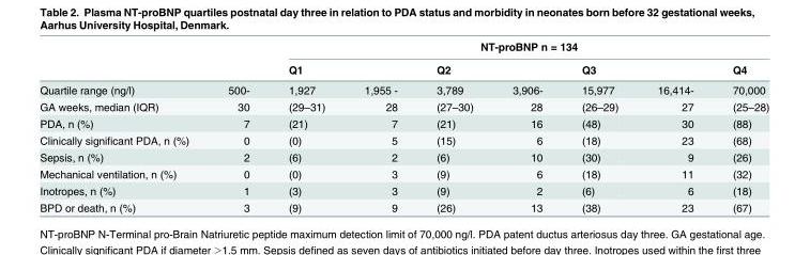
<table><thead><tr><td rowspan="2"></td><td colspan="8">NT-proBNP n = 134</td></tr><tr><td></td><td>Q1</td><td></td><td>Q2</td><td></td><td>Q3</td><td></td><td>Q4</td></tr></thead><tbody><tr><td>Quartile range (ng/l)</td><td>500-</td><td>1,927</td><td>1,955 -</td><td>3,789</td><td>3,906-</td><td>15,977</td><td>16,414-</td><td>70,000</td></tr><tr><td>GA weeks, median (IQR)</td><td>30</td><td>(29–31)</td><td>28</td><td>(27–30)</td><td>28</td><td>(26–29)</td><td>27</td><td>(25–28)</td></tr><tr><td>PDA, n (%)</td><td>7</td><td>(21)</td><td>7</td><td>(21)</td><td>16</td><td>(48)</td><td>30</td><td>(88)</td></tr><tr><td>Clinically significant PDA, n (%)</td><td>0</td><td>(0)</td><td>5</td><td>(15)</td><td>6</td><td>(18)</td><td>23</td><td>(68)</td></tr><tr><td>Sepsis, n (%)</td><td>2</td><td>(6)</td><td>2</td><td>(6)</td><td>10</td><td>(30)</td><td>9</td><td>(26)</td></tr><tr><td>Mechanical ventilation, n (%)</td><td>0</td><td>(0)</td><td>3</td><td>(9)</td><td>6</td><td>(18)</td><td>11</td><td>(32)</td></tr><tr><td>Inotropes, n (%)</td><td>1</td><td>(3)</td><td>3</td><td>(9)</td><td>2</td><td>(6)</td><td>6</td><td>(18)</td></tr><tr><td>BPD or death, n (%)</td><td>3</td><td>(9)</td><td>9</td><td>(26)</td><td>13</td><td>(38)</td><td>23</td><td>(67)</td></tr></tbody></table>